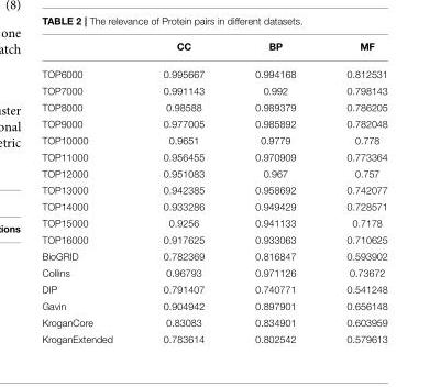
<table><thead><tr><td></td><td>CC</td><td>BP</td><td>MF</td></tr></thead><tbody><tr><td>TOP6000</td><td>0.995667</td><td>0.994168</td><td>0.812531</td></tr><tr><td>TOP7000</td><td>0.991143</td><td>0.992</td><td>0.798143</td></tr><tr><td>TOP8000</td><td>0.98588</td><td>0.989379</td><td>0.786205</td></tr><tr><td>TOP9000</td><td>0.977005</td><td>0.985892</td><td>0.782048</td></tr><tr><td>TOP10000</td><td>0.9651</td><td>0.9779</td><td>0.778</td></tr><tr><td>TOP11000</td><td>0.956455</td><td>0.970909</td><td>0.773364</td></tr><tr><td>TOP12000</td><td>0.951083</td><td>0.967</td><td>0.757</td></tr><tr><td>TOP13000</td><td>0.942385</td><td>0.958692</td><td>0.742077</td></tr><tr><td>TOP14000</td><td>0.933286</td><td>0.949429</td><td>0.728571</td></tr><tr><td>TOP15000</td><td>0.9256</td><td>0.941133</td><td>0.7178</td></tr><tr><td>TOP16000</td><td>0.917625</td><td>0.933063</td><td>0.710625</td></tr><tr><td>BioGRID</td><td>0.782369</td><td>0.816847</td><td>0.593902</td></tr><tr><td>Collins</td><td>0.96793</td><td>0.971126</td><td>0.73672</td></tr><tr><td>DIP</td><td>0.791407</td><td>0.740771</td><td>0.541248</td></tr><tr><td>Gavin</td><td>0.904942</td><td>0.897901</td><td>0.656148</td></tr><tr><td>KroganCore</td><td>0.83083</td><td>0.834901</td><td>0.603959</td></tr><tr><td>KroganExtended</td><td>0.783614</td><td>0.802542</td><td>0.579613</td></tr></tbody></table>